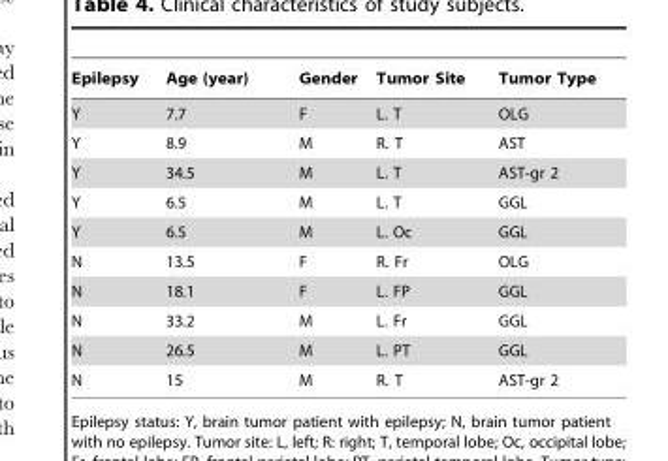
<table><thead><tr><td>Epilepsy</td><td>Age (year)</td><td>Gender</td><td>Tumor Site</td><td>Tumor Type</td></tr></thead><tbody><tr><td>Y</td><td>7.7</td><td>F</td><td>L. T</td><td>OLG</td></tr><tr><td>Y</td><td>8.9</td><td>M</td><td>R. T</td><td>AST</td></tr><tr><td>Y</td><td>34.5</td><td>M</td><td>L. T</td><td>AST-gr 2</td></tr><tr><td>Y</td><td>6.5</td><td>M</td><td>L. T</td><td>GGL</td></tr><tr><td>Y</td><td>6.5</td><td>M</td><td>L. Oc</td><td>GGL</td></tr><tr><td>N</td><td>13.5</td><td>F</td><td>R. Fr</td><td>OLG</td></tr><tr><td>N</td><td>18.1</td><td>F</td><td>L. FP</td><td>GGL</td></tr><tr><td>N</td><td>33.2</td><td>M</td><td>L. Fr</td><td>GGL</td></tr><tr><td>N</td><td>26.5</td><td>M</td><td>L. PT</td><td>GGL</td></tr><tr><td>N</td><td>15</td><td>M</td><td>R. T</td><td>AST-gr 2</td></tr></tbody></table>